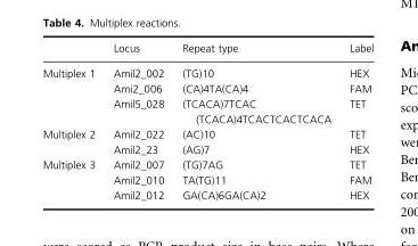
<table><thead><tr><td></td><td>Locus</td><td>Repeat type</td><td>Label</td></tr></thead><tbody><tr><td rowspan="3">Multiplex 1</td><td>Amil2_002</td><td>(TG)10</td><td>HEX</td></tr><tr><td>Ami2_006</td><td>(CA)4TA(CA)4</td><td>FAM</td></tr><tr><td>Amil5_028</td><td>(TCACA)7TCAC (TCACA)4TCACTCACTCACA</td><td>TET</td></tr><tr><td rowspan="2">Multiplex 2</td><td>Amil2_022</td><td>(AC)10</td><td>TET</td></tr><tr><td>Amil2_23</td><td>(AG)7</td><td>HEX</td></tr><tr><td rowspan="3">Multiplex 3</td><td>Amil2_007</td><td>(TG)7AG</td><td>TET</td></tr><tr><td>Amil2_010</td><td>TA(TG)11</td><td>FAM</td></tr><tr><td>Amil2_012</td><td>GA(CA)6GA(CA)2</td><td>HEX</td></tr></tbody></table>